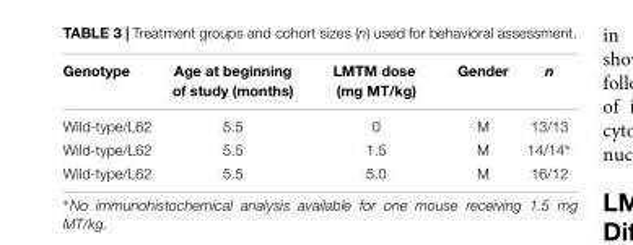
<table><thead><tr><td>Genotype</td><td>Age at beginning of study (months)</td><td>LMTM dose (mg MT/kg)</td><td>Gender</td><td>n</td></tr></thead><tbody><tr><td>Wild-type/L62</td><td>5.5</td><td>0</td><td>M</td><td>13/13</td></tr><tr><td>Wild-type/L62</td><td>5.5</td><td>1.5</td><td>M</td><td>14/14∗</td></tr><tr><td>Wild-type/L62</td><td>5.5</td><td>5.0</td><td>M</td><td>16/12</td></tr></tbody></table>